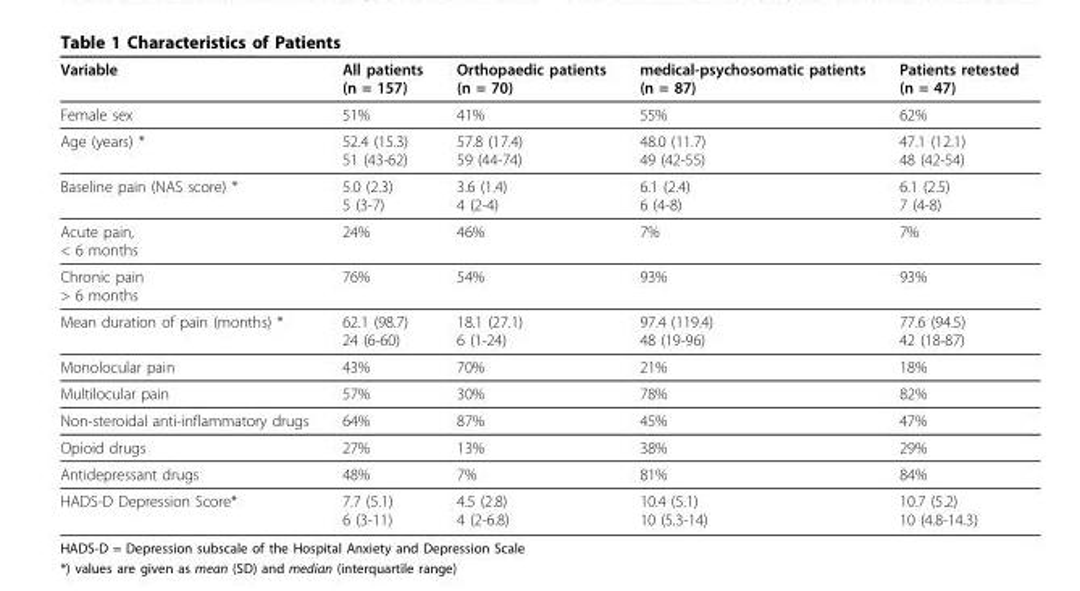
<table><thead><tr><td>Variable</td><td>All patients (n = 157)</td><td>Orthopaedic patients (n = 70)</td><td>medical-psychosomatic patients (n = 87)</td><td>Patients retested (n = 47)</td></tr></thead><tbody><tr><td>Female sex</td><td>51%</td><td>41%</td><td>55%</td><td>62%</td></tr><tr><td>Age (years) *</td><td>52.4 (15.3) 51 (43-62)</td><td>57.8 (17.4) 59 (44-74)</td><td>48.0 (11.7) 49 (42-55)</td><td>47.1 (12.1) 48 (42-54)</td></tr><tr><td>Baseline pain (NAS score) *</td><td>5.0 (2.3) 5 (3-7)</td><td>3.6 (1.4) 4 (2-4)</td><td>6.1 (2.4) 6 (4-8)</td><td>6.1 (2.5) 7 (4-8)</td></tr><tr><td>Acute pain, &lt; 6 months</td><td>24%</td><td>46%</td><td>7%</td><td>7%</td></tr><tr><td>Chronic pain &gt; 6 months</td><td>76%</td><td>54%</td><td>93%</td><td>93%</td></tr><tr><td>Mean duration of pain (months) *</td><td>62.1 (98.7) 24 (6-60)</td><td>18.1 (27.1) 6 (1-24)</td><td>97.4 (119.4) 48 (19-96)</td><td>77.6 (94.5) 42 (18-87)</td></tr><tr><td>Monolocular pain</td><td>43%</td><td>70%</td><td>21%</td><td>18%</td></tr><tr><td>Multilocular pain</td><td>57%</td><td>30%</td><td>78%</td><td>82%</td></tr><tr><td>Non-steroidal anti-inflammatory drugs</td><td>64%</td><td>87%</td><td>45%</td><td>47%</td></tr><tr><td>Opioid drugs</td><td>27%</td><td>13%</td><td>38%</td><td>29%</td></tr><tr><td>Antidepressant drugs</td><td>48%</td><td>7%</td><td>81%</td><td>84%</td></tr><tr><td>HADS-D Depression Score*</td><td>7.7 (5.1) 6 (3-11)</td><td>4.5 (2.8) 4 (2-6.8)</td><td>10.4 (5.1) 10 (5.3-14)</td><td>10.7 (5.2) 10 (4.8-14.3)</td></tr></tbody></table>